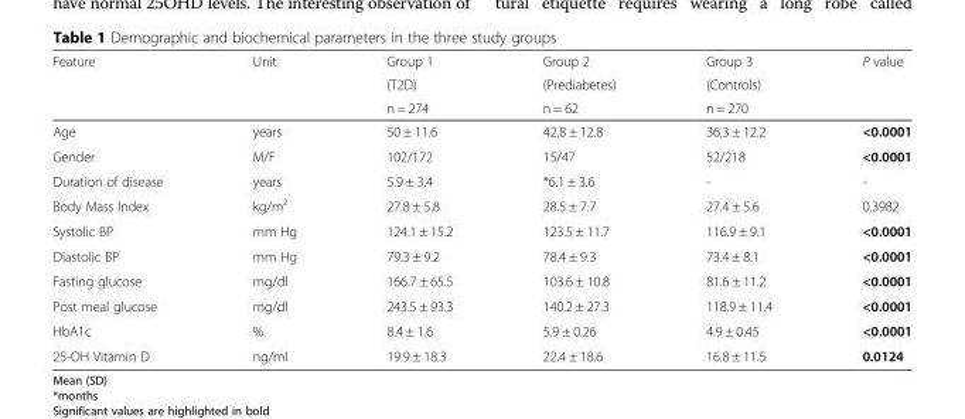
<table><thead><tr><td rowspan="3">Feature</td><td rowspan="3">Unit</td><td rowspan="3">Group 1 (T2D) n = 274</td><td rowspan="3">Group 2 (Prediabetes) n = 62</td><td rowspan="3">Group 3 (Controls) n = 270</td><td rowspan="3">P value</td></tr><tr></tr><tr></tr></thead><tbody><tr><td>Age</td><td>years</td><td>50 ± 11.6</td><td>42.8 ± 12.8</td><td>36.3 ± 12.2</td><td>&lt;0.0001</td></tr><tr><td>Gender</td><td>M/F</td><td>102/172</td><td>15/47</td><td>52/218</td><td>&lt;0.0001</td></tr><tr><td>Duration of disease</td><td>years</td><td>5.9 ± 3.4</td><td>*6.1 ± 3.6</td><td>-</td><td>-</td></tr><tr><td>Body Mass Index</td><td>kg/m<sup>2</sup></td><td>27.8 ± 5.8</td><td>28.5 ± 7.7</td><td>27.4 ± 5.6</td><td>0.3982</td></tr><tr><td>Systolic BP</td><td>mm Hg</td><td>124.1 ± 15.2</td><td>123.5 ± 11.7</td><td>116.9 ± 9.1</td><td>&lt;0.0001</td></tr><tr><td>Diastolic BP</td><td>mm Hg</td><td>79.3 ± 9.2</td><td>78.4 ± 9.3</td><td>73.4 ± 8.1</td><td>&lt;0.0001</td></tr><tr><td>Fasting glucose</td><td>mg/dl</td><td>166.7 ± 65.5</td><td>103.6 ± 10.8</td><td>81.6 ± 11.2</td><td>&lt;0.0001</td></tr><tr><td>Post meal glucose</td><td>mg/dl</td><td>243.5 ± 93.3</td><td>140.2 ± 27.3</td><td>118.9 ± 11.4</td><td>&lt;0.0001</td></tr><tr><td>HbA1c</td><td>%</td><td>8.4 ± 1.6</td><td>5.9 ± 0.26</td><td>4.9 ± 0.45</td><td>&lt;0.0001</td></tr><tr><td>25-OH Vitamin D</td><td>ng/ml</td><td>19.9 ± 18.3</td><td>22.4 ± 18.6</td><td>16.8 ± 11.5</td><td>0.0124</td></tr></tbody></table>